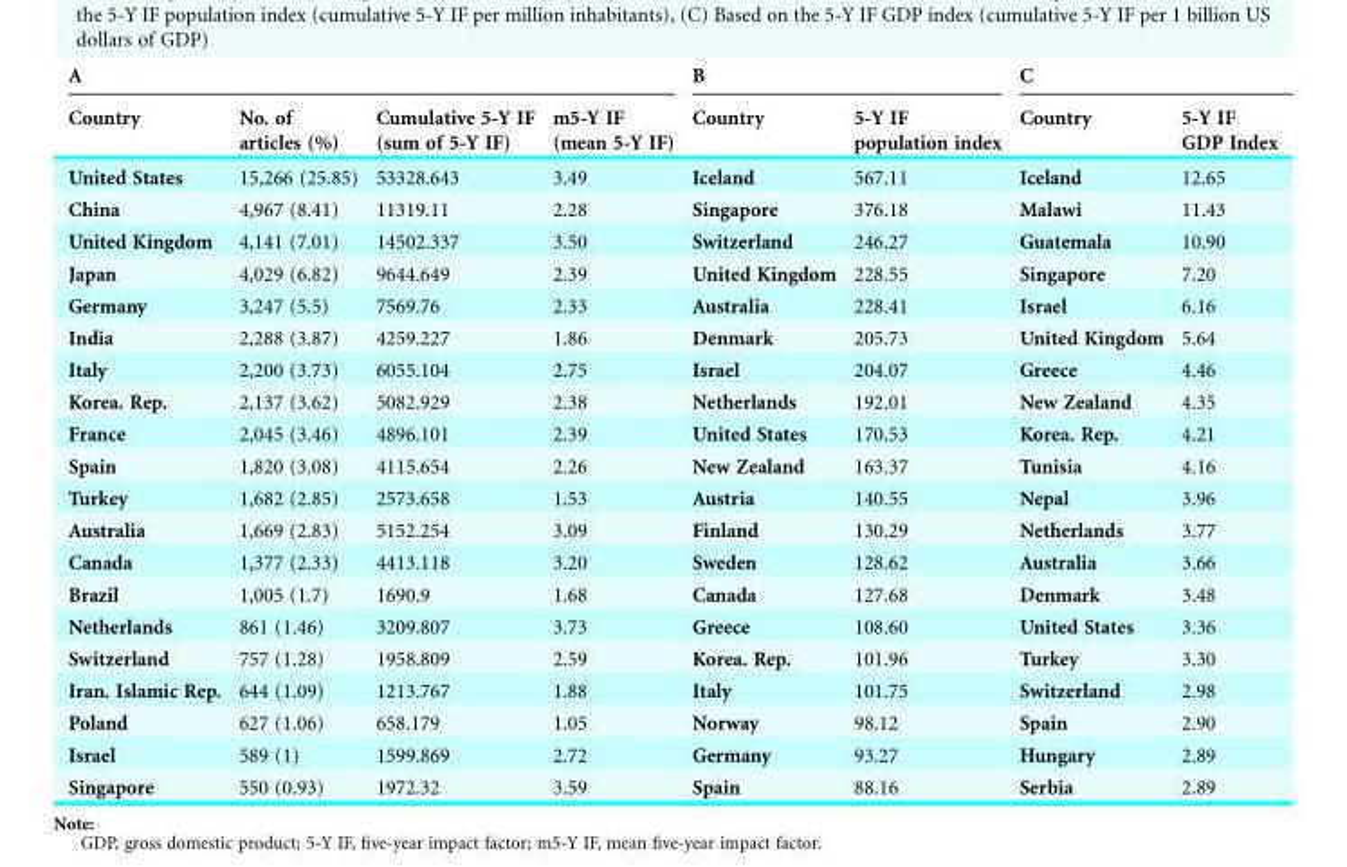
<table><thead><tr><td colspan="4">A</td><td colspan="2">B</td><td colspan="2">C</td></tr><tr><td>Country</td><td>No. of articles (%)</td><td>Cumulative 5-Y IF (sum of 5-Y IF)</td><td>m5-Y IF (mean 5-Y IF)</td><td>Country</td><td>5-Y IF population index</td><td>Country</td><td>5-Y IF GDP Index</td></tr></thead><tbody><tr><td>United States</td><td>15,266 (25.85)</td><td>53328.643</td><td>3.49</td><td>Iceland</td><td>567.11</td><td>Iceland</td><td>12.65</td></tr><tr><td>China</td><td>4,967 (8.41)</td><td>11319.11</td><td>2.28</td><td>Singapore</td><td>376.18</td><td>Malawi</td><td>11.43</td></tr><tr><td>United Kingdom</td><td>4,141 (7.01)</td><td>14502.337</td><td>3.50</td><td>Switzerland</td><td>246.27</td><td>Guatemala</td><td>10.90</td></tr><tr><td>Japan</td><td>4,029 (6.82)</td><td>9644.649</td><td>2.39</td><td>United Kingdom</td><td>228.55</td><td>Singapore</td><td>7.20</td></tr><tr><td>Germany</td><td>3,247 (5.5)</td><td>7569.76</td><td>2.33</td><td>Australia</td><td>228.41</td><td>Israel</td><td>6.16</td></tr><tr><td>India</td><td>2,288 (3.87)</td><td>4259.227</td><td>1.86</td><td>Denmark</td><td>205.73</td><td>United Kingdom</td><td>5.64</td></tr><tr><td>Italy</td><td>2,200 (3.73)</td><td>6055.104</td><td>2.75</td><td>Israel</td><td>204.07</td><td>Greece</td><td>4.46</td></tr><tr><td>Korea. Rep.</td><td>2,137 (3.62)</td><td>5082.929</td><td>2.38</td><td>Netherlands</td><td>192.01</td><td>New Zealand</td><td>4.35</td></tr><tr><td>France</td><td>2,045 (3.46)</td><td>4896.101</td><td>2.39</td><td>United States</td><td>170.53</td><td>Korea. Rep.</td><td>4.21</td></tr><tr><td>Spain</td><td>1,820 (3.08)</td><td>4115.654</td><td>2.26</td><td>New Zealand</td><td>163.37</td><td>Tunisia</td><td>4.16</td></tr><tr><td>Turkey</td><td>1,682 (2.85)</td><td>2573.658</td><td>1.53</td><td>Austria</td><td>140.55</td><td>Nepal</td><td>3.96</td></tr><tr><td>Australia</td><td>1,669 (2.83)</td><td>5152.254</td><td>3.09</td><td>Finland</td><td>130.29</td><td>Netherlands</td><td>3.77</td></tr><tr><td>Canada</td><td>1,377 (2.33)</td><td>4413.118</td><td>3.20</td><td>Sweden</td><td>128.62</td><td>Australia</td><td>3.66</td></tr><tr><td>Brazil</td><td>1,005 (1.7)</td><td>1690.9</td><td>1.68</td><td>Canada</td><td>127.68</td><td>Denmark</td><td>3.48</td></tr><tr><td>Netherlands</td><td>861 (1.46)</td><td>3209.807</td><td>3.73</td><td>Greece</td><td>108.60</td><td>United States</td><td>3.36</td></tr><tr><td>Switzerland</td><td>757 (1.28)</td><td>1958.809</td><td>2.59</td><td>Korea. Rep.</td><td>101.96</td><td>Turkey</td><td>3.30</td></tr><tr><td>Iran. Islamic Rep.</td><td>644 (1.09)</td><td>1213.767</td><td>1.88</td><td>Italy</td><td>101.75</td><td>Switzerland</td><td>2.98</td></tr><tr><td>Poland</td><td>627 (1.06)</td><td>658.179</td><td>1.05</td><td>Norway</td><td>98.12</td><td>Spain</td><td>2.90</td></tr><tr><td>Israel</td><td>589 (1)</td><td>1599.869</td><td>2.72</td><td>Germany</td><td>93.27</td><td>Hungary</td><td>2.89</td></tr><tr><td>Singapore</td><td>550 (0.93)</td><td>1972.32</td><td>3.59</td><td>Spain</td><td>88.16</td><td>Serbia</td><td>2.89</td></tr></tbody></table>